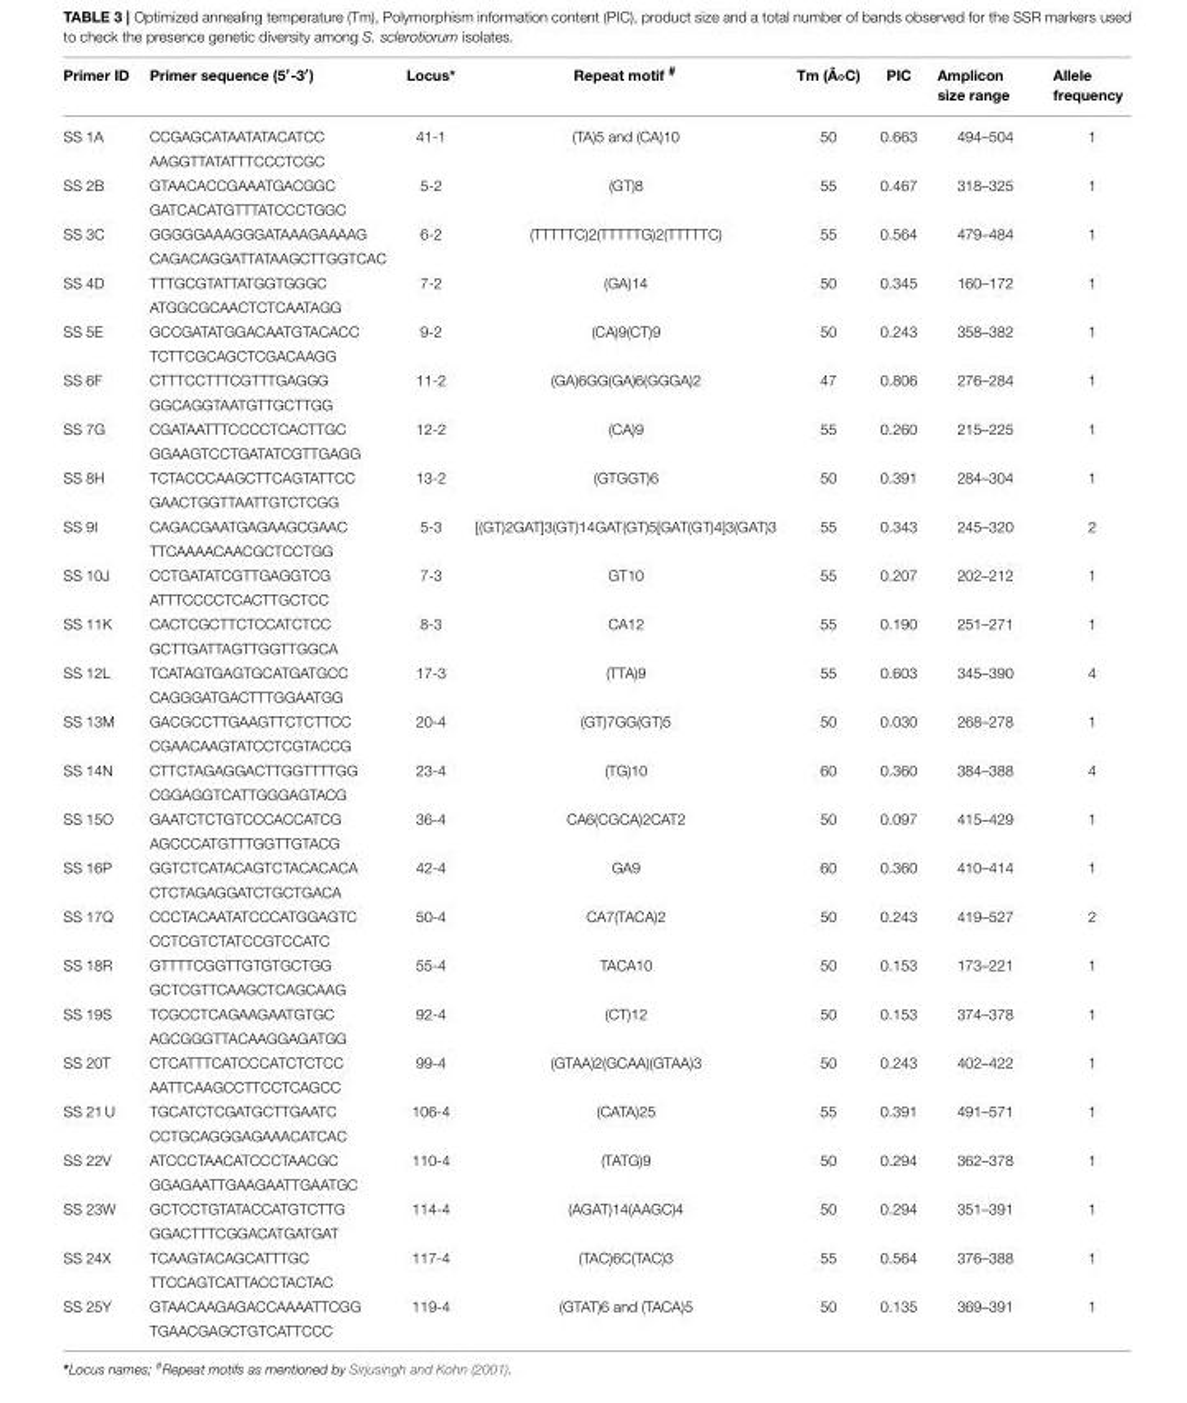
<table><thead><tr><td>Primer ID</td><td>Primer sequence (5<sup>′</sup>-3<sup>′</sup>)</td><td>Locus*</td><td>Repeat motif <sup>#</sup></td><td>Tm (Â◦C)</td><td>PIC</td><td>Amplicon size range</td><td>Allele frequency</td></tr></thead><tbody><tr><td rowspan="2">SS 1A</td><td>CCGAGCATAATATACATCC</td><td>41-1</td><td>(TA)5 and (CA)10</td><td>50</td><td>0.663</td><td>494–504</td><td>1</td></tr><tr><td>AAGGTTATATTTCCCTCGC</td><td></td><td></td><td></td><td></td><td></td><td></td></tr><tr><td rowspan="2">SS 2B</td><td>GTAACACCGAAATGACGGC</td><td>5-2</td><td>(GT)8</td><td>55</td><td>0.467</td><td>318–325</td><td>1</td></tr><tr><td>GATCACATGTTTATCCCTGGC</td><td></td><td></td><td></td><td></td><td></td><td></td></tr><tr><td rowspan="2">SS 3C</td><td>GGGGGAAAGGGATAAAGAAAAG</td><td>6-2</td><td>(TTTTTC)2(TTTTTG)2(TTTTTC)</td><td>55</td><td>0.564</td><td>479–484</td><td>1</td></tr><tr><td>CAGACAGGATTATAAGCTTGGTCAC</td><td></td><td></td><td></td><td></td><td></td><td></td></tr><tr><td rowspan="2">SS 4D</td><td>TTTGCGTATTATGGTGGGC</td><td>7-2</td><td>(GA)14</td><td>50</td><td>0.345</td><td>160–172</td><td>1</td></tr><tr><td>ATGGCGCAACTCTCAATAGG</td><td></td><td></td><td></td><td></td><td></td><td></td></tr><tr><td rowspan="2">SS 5E</td><td>GCCGATATGGACAATGTACACC</td><td>9-2</td><td>(CA)9(CT)9</td><td>50</td><td>0.243</td><td>358–382</td><td>1</td></tr><tr><td>TCTTCGCAGCTCGACAAGG</td><td></td><td></td><td></td><td></td><td></td><td></td></tr><tr><td rowspan="2">SS 6F</td><td>CTTTCCTTTCGTTTGAGGG</td><td>11-2</td><td>(GA)6GG(GA)6(GGGA)2</td><td>47</td><td>0.806</td><td>276–284</td><td>1</td></tr><tr><td>GGCAGGTAATGTTGCTTGG</td><td></td><td></td><td></td><td></td><td></td><td></td></tr><tr><td rowspan="2">SS 7G</td><td>CGATAATTTCCCCTCACTTGC</td><td>12-2</td><td>(CA)9</td><td>55</td><td>0.260</td><td>215–225</td><td>1</td></tr><tr><td>GGAAGTCCTGATATCGTTGAGG</td><td></td><td></td><td></td><td></td><td></td><td></td></tr><tr><td rowspan="2">SS 8H</td><td>TCTACCCAAGCTTCAGTATTCC</td><td>13-2</td><td>(GTGGT)6</td><td>50</td><td>0.391</td><td>284–304</td><td>1</td></tr><tr><td>GAACTGGTTAATTGTCTCGG</td><td></td><td></td><td></td><td></td><td></td><td></td></tr><tr><td rowspan="2">SS 9I</td><td>CAGACGAATGAGAAGCGAAC</td><td>5-3</td><td>[(GT)2GAT]3(GT)14GAT(GT)5[GAT(GT)4]3(GAT)3</td><td>55</td><td>0.343</td><td>245–320</td><td>2</td></tr><tr><td>TTCAAAACAACGCTCCTGG</td><td></td><td></td><td></td><td></td><td></td><td></td></tr><tr><td rowspan="2">SS 10J</td><td>CCTGATATCGTTGAGGTCG</td><td>7-3</td><td>GT10</td><td>55</td><td>0.207</td><td>202–212</td><td>1</td></tr><tr><td>ATTTCCCCTCACTTGCTCC</td><td></td><td></td><td></td><td></td><td></td><td></td></tr><tr><td rowspan="2">SS 11K</td><td>CACTCGCTTCTCCATCTCC</td><td>8-3</td><td>CA12</td><td>55</td><td>0.190</td><td>251–271</td><td>1</td></tr><tr><td>GCTTGATTAGTTGGTTGGCA</td><td></td><td></td><td></td><td></td><td></td><td></td></tr><tr><td rowspan="2">SS 12L</td><td>TCATAGTGAGTGCATGATGCC</td><td>17-3</td><td>(TTA)9</td><td>55</td><td>0.603</td><td>345–390</td><td>4</td></tr><tr><td>CAGGGATGACTTTGGAATGG</td><td></td><td></td><td></td><td></td><td></td><td></td></tr><tr><td rowspan="2">SS 13M</td><td>GACGCCTTGAAGTTCTCTTCC</td><td>20-4</td><td>(GT)7GG(GT)5</td><td>50</td><td>0.030</td><td>268–278</td><td>1</td></tr><tr><td>CGAACAAGTATCCTCGTACCG</td><td></td><td></td><td></td><td></td><td></td><td></td></tr><tr><td rowspan="2">SS 14N</td><td>CTTCTAGAGGACTTGGTTTTGG</td><td>23-4</td><td>(TG)10</td><td>60</td><td>0.360</td><td>384–388</td><td>4</td></tr><tr><td>CGGAGGTCATTGGGAGTACG</td><td></td><td></td><td></td><td></td><td></td><td></td></tr><tr><td rowspan="2">SS 15O</td><td>GAATCTCTGTCCCACCATCG</td><td>36-4</td><td>CA6(CGCA)2CAT2</td><td>50</td><td>0.097</td><td>415–429</td><td>1</td></tr><tr><td>AGCCCATGTTTGGTTGTACG</td><td></td><td></td><td></td><td></td><td></td><td></td></tr><tr><td rowspan="2">SS 16P</td><td>GGTCTCATACAGTCTACACACA</td><td>42-4</td><td>GA9</td><td>60</td><td>0.360</td><td>410–414</td><td>1</td></tr><tr><td>CTCTAGAGGATCTGCTGACA</td><td></td><td></td><td></td><td></td><td></td><td></td></tr><tr><td rowspan="2">SS 17Q</td><td>CCCTACAATATCCCATGGAGTC</td><td>50-4</td><td>CA7(TACA)2</td><td>50</td><td>0.243</td><td>419–527</td><td>2</td></tr><tr><td>CCTCGTCTATCCGTCCATC</td><td></td><td></td><td></td><td></td><td></td><td></td></tr><tr><td rowspan="2">SS 18R</td><td>GTTTTCGGTTGTGTGCTGG</td><td>55-4</td><td>TACA10</td><td>50</td><td>0.153</td><td>173–221</td><td>1</td></tr><tr><td>GCTCGTTCAAGCTCAGCAAG</td><td></td><td></td><td></td><td></td><td></td><td></td></tr><tr><td rowspan="2">SS 19S</td><td>TCGCCTCAGAAGAATGTGC</td><td>92-4</td><td>(CT)12</td><td>50</td><td>0.153</td><td>374–378</td><td>1</td></tr><tr><td>AGCGGGTTACAAGGAGATGG</td><td></td><td></td><td></td><td></td><td></td><td></td></tr><tr><td rowspan="2">SS 20T</td><td>CTCATTTCATCCCATCTCTCC</td><td>99-4</td><td>(GTAA)2(GCAA)(GTAA)3</td><td>50</td><td>0.243</td><td>402–422</td><td>1</td></tr><tr><td>AATTCAAGCCTTCCTCAGCC</td><td></td><td></td><td></td><td></td><td></td><td></td></tr><tr><td rowspan="2">SS 21 U</td><td>TGCATCTCGATGCTTGAATC</td><td>106-4</td><td>(CATA)25</td><td>55</td><td>0.391</td><td>491–571</td><td>1</td></tr><tr><td>CCTGCAGGGAGAAACATCAC</td><td></td><td></td><td></td><td></td><td></td><td></td></tr><tr><td rowspan="2">SS 22V</td><td>ATCCCTAACATCCCTAACGC</td><td>110-4</td><td>(TATG)9</td><td>50</td><td>0.294</td><td>362–378</td><td>1</td></tr><tr><td>GGAGAATTGAAGAATTGAATGC</td><td></td><td></td><td></td><td></td><td></td><td></td></tr><tr><td rowspan="2">SS 23W</td><td>GCTCCTGTATACCATGTCTTG</td><td>114-4</td><td>(AGAT)14(AAGC)4</td><td>50</td><td>0.294</td><td>351–391</td><td>1</td></tr><tr><td>GGACTTTCGGACATGATGAT</td><td></td><td></td><td></td><td></td><td></td><td></td></tr><tr><td rowspan="2">SS 24X</td><td>TCAAGTACAGCATTTGC</td><td>117-4</td><td>(TAC)6C(TAC)3</td><td>55</td><td>0.564</td><td>376–388</td><td>1</td></tr><tr><td>TTCCAGTCATTACCTACTAC</td><td></td><td></td><td></td><td></td><td></td><td></td></tr><tr><td rowspan="2">SS 25Y</td><td>GTAACAAGAGACCAAAATTCGG</td><td>119-4</td><td>(GTAT)6 and (TACA)5</td><td>50</td><td>0.135</td><td>369–391</td><td>1</td></tr><tr><td>TGAACGAGCTGTCATTCCC</td><td></td><td></td><td></td><td></td><td></td><td></td></tr></tbody></table>